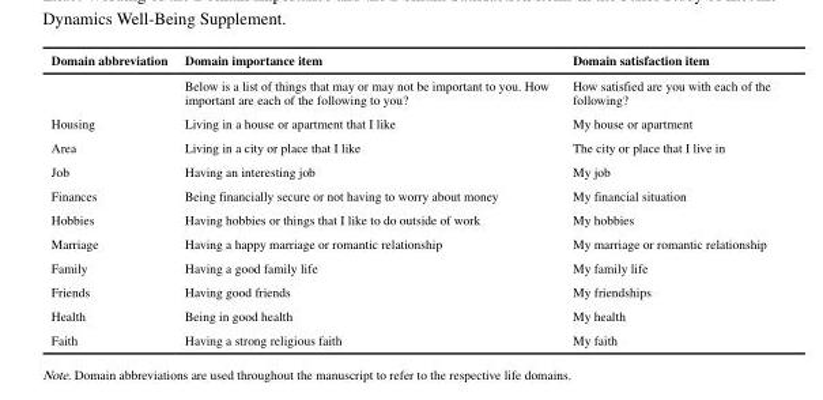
<table><thead><tr><td>Domain abbreviation</td><td>Domain importance item</td><td>Domain satisfaction item</td></tr></thead><tbody><tr><td></td><td>Below is a list of things that may or may not be important to you. How important are each of the following to you?</td><td>How satisfied are you with each of the following?</td></tr><tr><td>Housing</td><td>Living in a house or apartment that I like</td><td>My house or apartment</td></tr><tr><td>Area</td><td>Living in a city or place that I like</td><td>The city or place that I live in</td></tr><tr><td>Job</td><td>Having an interesting job</td><td>My job</td></tr><tr><td>Finances</td><td>Being financially secure or not having to worry about money</td><td>My financial situation</td></tr><tr><td>Hobbies</td><td>Having hobbies or things that I like to do outside of work</td><td>My hobbies</td></tr><tr><td>Marriage</td><td>Having a happy marriage or romantic relationship</td><td>My marriage or romantic relationship</td></tr><tr><td>Family</td><td>Having a good family life</td><td>My family life</td></tr><tr><td>Friends</td><td>Having good friends</td><td>My friendships</td></tr><tr><td>Health</td><td>Being in good health</td><td>My health</td></tr><tr><td>Faith</td><td>Having a strong religious faith</td><td>My faith</td></tr></tbody></table>